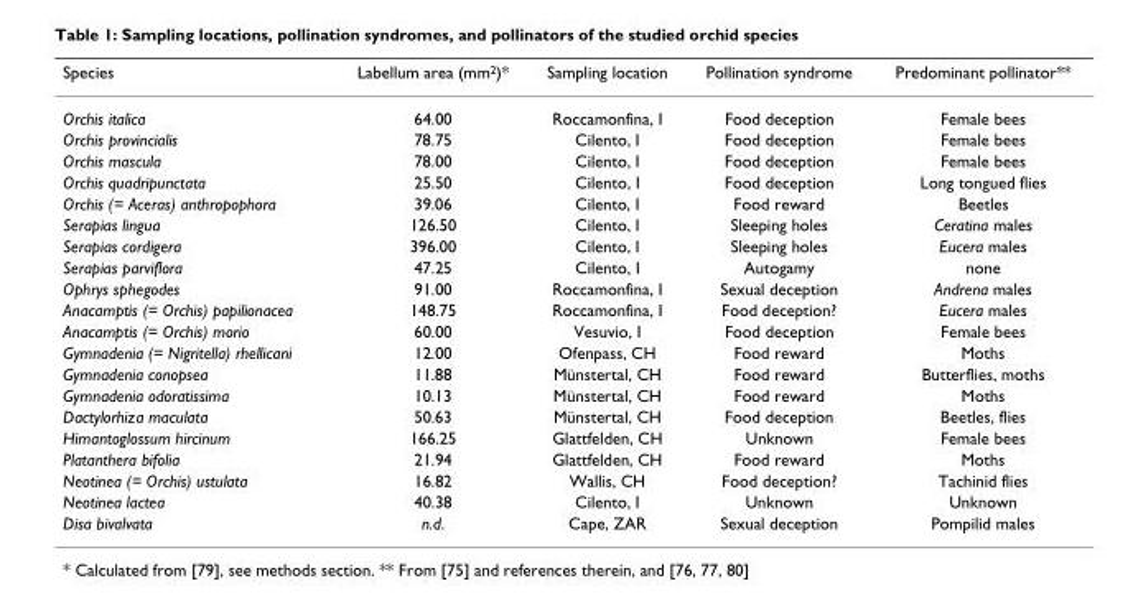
<table><thead><tr><td>Species</td><td>Labellum area (mm<sup>2</sup>)*</td><td>Sampling location</td><td>Pollination syndrome</td><td>Predominant pollinator**</td></tr></thead><tbody><tr><td>Orchis italica</td><td>64.00</td><td>Roccamonfina, I</td><td>Food deception</td><td>Female bees</td></tr><tr><td>Orchis provincialis</td><td>78.75</td><td>Cilento, I</td><td>Food deception</td><td>Female bees</td></tr><tr><td>Orchis mascula</td><td>78.00</td><td>Cilento, I</td><td>Food deception</td><td>Female bees</td></tr><tr><td>Orchis quadripunctata</td><td>25.50</td><td>Cilento, I</td><td>Food deception</td><td>Long tongued flies</td></tr><tr><td>Orchis (= Aceras) anthropophora</td><td>39.06</td><td>Cilento, I</td><td>Food reward</td><td>Beetles</td></tr><tr><td>Serapias lingua</td><td>126.50</td><td>Cilento, I</td><td>Sleeping holes</td><td>Ceratina males</td></tr><tr><td>Serapias cordigera</td><td>396.00</td><td>Cilento, I</td><td>Sleeping holes</td><td>Eucera males</td></tr><tr><td>Serapias parviflora</td><td>47.25</td><td>Cilento, I</td><td>Autogamy</td><td>none</td></tr><tr><td>Ophrys sphegodes</td><td>91.00</td><td>Roccamonfina, I</td><td>Sexual deception</td><td>Andrena males</td></tr><tr><td>Anacamptis (= Orchis) papilionacea</td><td>148.75</td><td>Roccamonfina, I</td><td>Food deception?</td><td>Eucera males</td></tr><tr><td>Anacamptis (= Orchis) morio</td><td>60.00</td><td>Vesuvio, I</td><td>Food deception</td><td>Female bees</td></tr><tr><td>Gymnadenia (= Nigritella) rhellicani</td><td>12.00</td><td>Ofenpass, CH</td><td>Food reward</td><td>Moths</td></tr><tr><td>Gymnadenia conopsea</td><td>11.88</td><td>Münstertal, CH</td><td>Food reward</td><td>Butterflies, moths</td></tr><tr><td>Gymnadenia odoratissima</td><td>10.13</td><td>Münstertal, CH</td><td>Food reward</td><td>Moths</td></tr><tr><td>Dactylorhiza maculata</td><td>50.63</td><td>Münstertal, CH</td><td>Food deception</td><td>Beetles, flies</td></tr><tr><td>Himantoglossum hircinum</td><td>166.25</td><td>Glattfelden, CH</td><td>Unknown</td><td>Female bees</td></tr><tr><td>Platanthera bifolia</td><td>21.94</td><td>Glattfelden, CH</td><td>Food reward</td><td>Moths</td></tr><tr><td>Neotinea (= Orchis) ustulata</td><td>16.82</td><td>Wallis, CH</td><td>Food deception?</td><td>Tachinid flies</td></tr><tr><td>Neotinea lactea</td><td>40.38</td><td>Cilento, I</td><td>Unknown</td><td>Unknown</td></tr><tr><td>Disa bivalvata</td><td>n.d.</td><td>Cape, ZAR</td><td>Sexual deception</td><td>Pompilid males</td></tr></tbody></table>